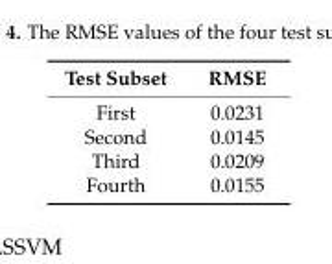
<table><thead><tr><td>Test Subset</td><td>RMSE</td></tr></thead><tbody><tr><td>First</td><td>0.0231</td></tr><tr><td>Second</td><td>0.0145</td></tr><tr><td>Third</td><td>0.0209</td></tr><tr><td>Fourth</td><td>0.0155</td></tr></tbody></table>